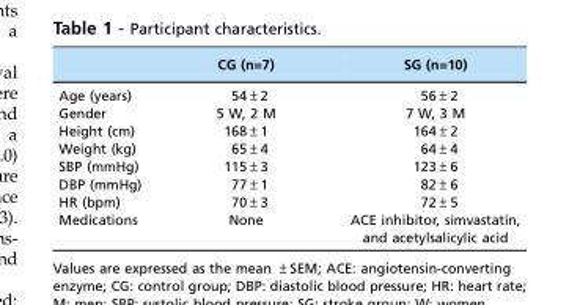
<table><thead><tr><td></td><td>CG (n=7)</td><td>SG (n=10)</td></tr></thead><tbody><tr><td>Age (years)</td><td>54±2</td><td>56±2</td></tr><tr><td>Gender</td><td>5 W, 2 M</td><td>7 W, 3 M</td></tr><tr><td>Height (cm)</td><td>168±1</td><td>164±2</td></tr><tr><td>Weight (kg)</td><td>65±4</td><td>64±4</td></tr><tr><td>SBP (mmHg)</td><td>115±3</td><td>123±6</td></tr><tr><td>DBP (mmHg)</td><td>77±1</td><td>82±6</td></tr><tr><td>HR (bpm)</td><td>70±3</td><td>72±5</td></tr><tr><td>Medications</td><td>None</td><td>ACE inhibitor, simvastatin, and acetylsalicylic acid</td></tr></tbody></table>